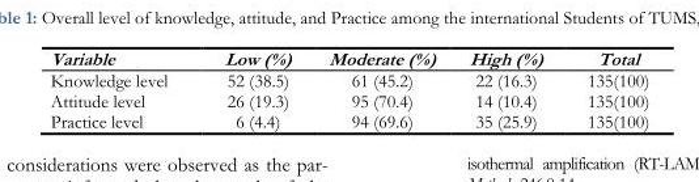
<table><thead><tr><td>Variable</td><td>Low (%)</td><td>Moderate (%)</td><td>High (%)</td><td>Total</td></tr></thead><tbody><tr><td>Knowledge level</td><td>52 (38.5)</td><td>61 (45.2)</td><td>22 (16.3)</td><td>135(100)</td></tr><tr><td>Attitude level</td><td>26 (19.3)</td><td>95 (70.4)</td><td>14 (10.4)</td><td>135(100)</td></tr><tr><td>Practice level</td><td>6 (4.4)</td><td>94 (69.6)</td><td>35 (25.9)</td><td>135(100)</td></tr></tbody></table>